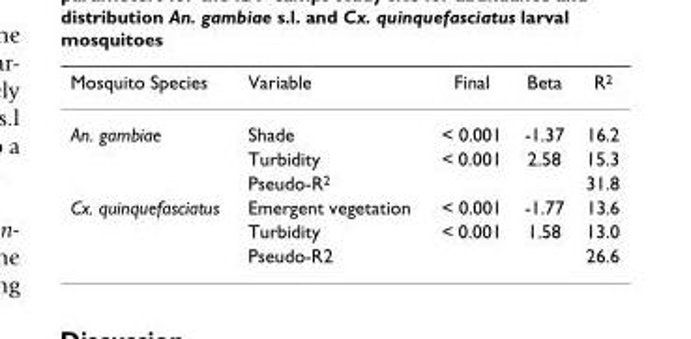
<table><thead><tr><td>Mosquito Species</td><td>Variable</td><td>Final</td><td>Beta</td><td>R<sup>2</sup></td></tr></thead><tbody><tr><td rowspan="3">An. gambiae</td><td>Shade</td><td>&lt; 0.001</td><td>-1.37</td><td>16.2</td></tr><tr><td>Turbidity</td><td>&lt; 0.001</td><td>2.58</td><td>15.3</td></tr><tr><td>Pseudo-R<sup>2</sup></td><td></td><td></td><td>31.8</td></tr><tr><td rowspan="3">Cx. quinquefasciatus</td><td>Emergent vegetation</td><td>&lt; 0.001</td><td>-1.77</td><td>13.6</td></tr><tr><td>Turbidity</td><td>&lt; 0.001</td><td>1.58</td><td>13.0</td></tr><tr><td>Pseudo-R2</td><td></td><td></td><td>26.6</td></tr></tbody></table>